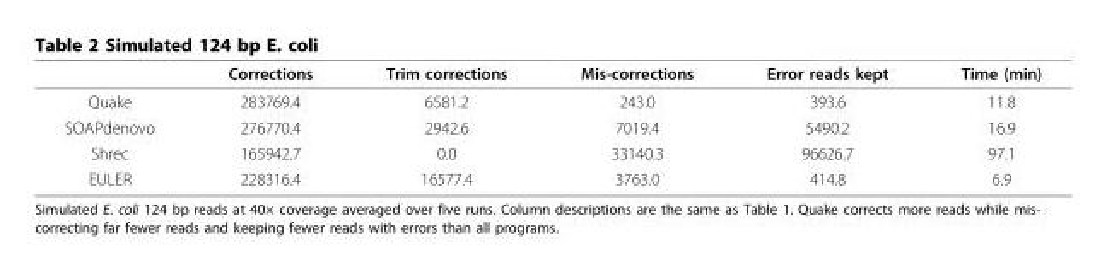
<table><thead><tr><td></td><td>Corrections</td><td>Trim corrections</td><td>Mis-corrections</td><td>Error reads kept</td><td>Time (min)</td></tr></thead><tbody><tr><td>Quake</td><td>283769.4</td><td>6581.2</td><td>243.0</td><td>393.6</td><td>11.8</td></tr><tr><td>SOAPdenovo</td><td>276770.4</td><td>2942.6</td><td>7019.4</td><td>5490.2</td><td>16.9</td></tr><tr><td>Shrec</td><td>165942.7</td><td>0.0</td><td>33140.3</td><td>96626.7</td><td>97.1</td></tr><tr><td>EULER</td><td>228316.4</td><td>16577.4</td><td>3763.0</td><td>414.8</td><td>6.9</td></tr></tbody></table>